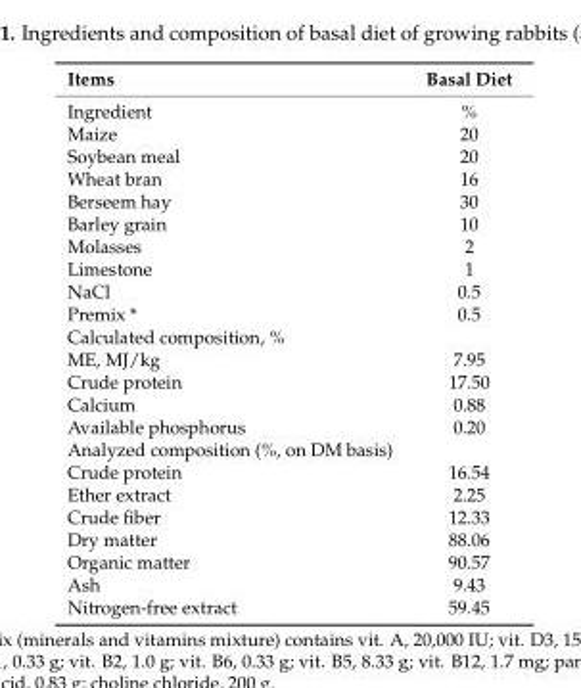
<table><thead><tr><td>Items</td><td>Basal Diet</td></tr></thead><tbody><tr><td>Ingredient</td><td>%</td></tr><tr><td>Maize</td><td>20</td></tr><tr><td>Soybean meal</td><td>20</td></tr><tr><td>Wheat bran</td><td>16</td></tr><tr><td>Berseem hay</td><td>30</td></tr><tr><td>Barley grain</td><td>10</td></tr><tr><td>Molasses</td><td>2</td></tr><tr><td>Limestone</td><td>1</td></tr><tr><td>NaCl</td><td>0.5</td></tr><tr><td>Premix *</td><td>0.5</td></tr><tr><td colspan="2">Calculated composition, %</td></tr><tr><td>ME, MJ/kg</td><td>7.95</td></tr><tr><td>Crude protein</td><td>17.50</td></tr><tr><td>Calcium</td><td>0.88</td></tr><tr><td>Available phosphorus</td><td>0.20</td></tr><tr><td colspan="2">Analyzed composition (%, on DM basis)</td></tr><tr><td>Crude protein</td><td>16.54</td></tr><tr><td>Ether extract</td><td>2.25</td></tr><tr><td>Crude fiber</td><td>12.33</td></tr><tr><td>Dry matter</td><td>88.06</td></tr><tr><td>Organic matter</td><td>90.57</td></tr><tr><td>Ash</td><td>9.43</td></tr><tr><td>Nitrogen-free extract</td><td>59.45</td></tr></tbody></table>